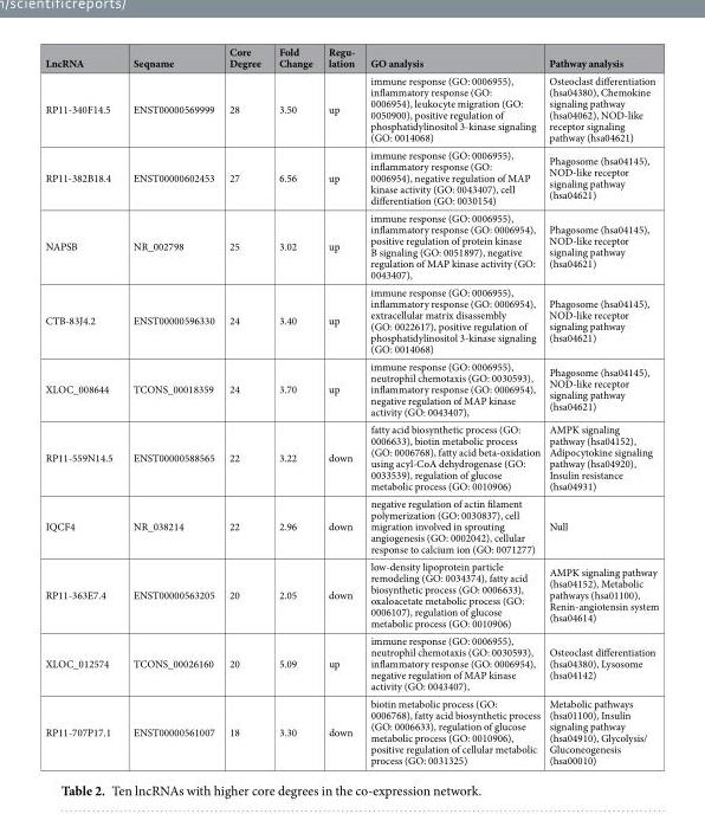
<table><thead><tr><td>LncRNA</td><td>Seqname</td><td>Core Degree</td><td>Fold Change</td><td>Regu- lation</td><td>GO analysis</td><td>Pathway analysis</td></tr></thead><tbody><tr><td>RP11-340F14.5</td><td>ENST00000569999</td><td>28</td><td>3.50</td><td>up</td><td>immune response (GO: 0006955), inflammatory response (GO: 0006954), leukocyte migration (GO: 0050900), positive regulation of phosphatidylinositol 3-kinase signaling (GO: 0014068)</td><td>Osteoclast differentiation (hsa04380), Chemokine signaling pathway (hsa04062), NOD-like receptor signaling pathway (hsa04621)</td></tr><tr><td>RP11-382B18.4</td><td>ENST00000602453</td><td>27</td><td>6.56</td><td>up</td><td>immune response (GO: 0006955), inflammatory response (GO: 0006954), negative regulation of MAP kinase activity (GO: 0043407), cell differentiation (GO: 0030154)</td><td>Phagosome (hsa04145), NOD-like receptor signaling pathway (hsa04621)</td></tr><tr><td>NAPSB</td><td>NR_002798</td><td>25</td><td>3.02</td><td>up</td><td>immune response (GO: 0006955), inflammatory response (GO: 0006954), positive regulation of protein kinase B signaling (GO: 0051897), negative regulation of MAP kinase activity (GO: 0043407),</td><td>Phagosome (hsa04145), NOD-like receptor signaling pathway (hsa04621)</td></tr><tr><td>CTB-83J4.2</td><td>ENST00000596330</td><td>24</td><td>3.40</td><td>up</td><td>immune response (GO: 0006955), inflammatory response (GO: 0006954), extracellular matrix disassembly (GO: 0022617), positive regulation of phosphatidylinositol 3-kinase signaling (GO: 0014068)</td><td>Phagosome (hsa04145), NOD-like receptor signaling pathway (hsa04621)</td></tr><tr><td>XLOC_008644</td><td>TCONS_00018359</td><td>24</td><td>3.70</td><td>up</td><td>immune response (GO: 0006955), neutrophil chemotaxis (GO: 0030593), inflammatory response (GO: 0006954), negative regulation of MAP kinase activity (GO: 0043407),</td><td>Phagosome (hsa04145), NOD-like receptor signaling pathway (hsa04621)</td></tr><tr><td>RP11-559N14.5</td><td>ENST00000588565</td><td>22</td><td>3.22</td><td>down</td><td>fatty acid biosynthetic process (GO: 0006633), biotin metabolic process (GO: 0006768), fatty acid beta-oxidation using acyl-CoA dehydrogenase (GO: 0033539), regulation of glucose metabolic process (GO: 0010906)</td><td>AMPK signaling pathway (hsa04152), Adipocytokine signaling pathway (hsa04920), Insulin resistance (hsa04931)</td></tr><tr><td>IQCF4</td><td>NR_038214</td><td>22</td><td>2.96</td><td>down</td><td>negative regulation of actin filament polymerization (GO: 0030837), cell migration involved in sprouting angiogenesis (GO: 0002042), cellular response to calcium ion (GO: 0071277)</td><td>Null</td></tr><tr><td>RP11-363E7.4</td><td>ENST00000563205</td><td>20</td><td>2.05</td><td>down</td><td>low-density lipoprotein particle remodeling (GO: 0034374), fatty acid biosynthetic process (GO: 0006633), oxaloacetate metabolic process (GO: 0006107), regulation of glucose metabolic process (GO: 0010906)</td><td>AMPK signaling pathway (hsa04152), Metabolic pathways (hsa01100), Renin-angiotensin system (hsa04614)</td></tr><tr><td>XLOC_012574</td><td>TCONS_00026160</td><td>20</td><td>5.09</td><td>up</td><td>immune response (GO: 0006955), neutrophil chemotaxis (GO: 0030593), inflammatory response (GO: 0006954), negative regulation of MAP kinase activity (GO: 0043407),</td><td>Osteoclast differentiation (hsa04380), Lysosome (hsa04142)</td></tr><tr><td>RP11-707P17.1</td><td>ENST00000561007</td><td>18</td><td>3.30</td><td>down</td><td>biotin metabolic process (GO: 0006768), fatty acid biosynthetic process (GO: 0006633), regulation of glucose metabolic process (GO: 0010906), positive regulation of cellular metabolic process (GO: 0031325)</td><td>Metabolic pathways (hsa01100), Insulin signaling pathway (hsa04910), Glycolysis/ Gluconeogenesis (hsa00010)</td></tr></tbody></table>